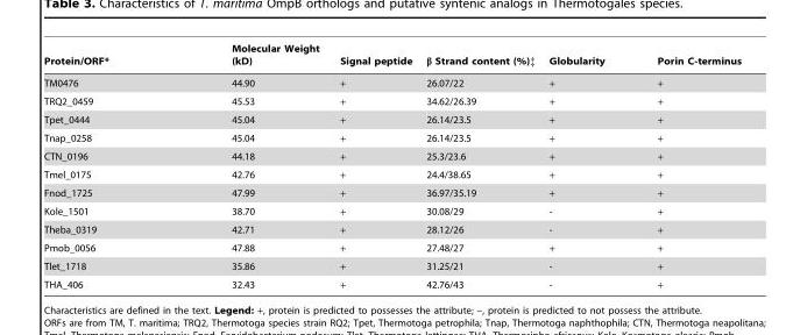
<table><thead><tr><td>Protein/ORF*</td><td>Molecular Weight (kD)</td><td>Signal peptide</td><td>β Strand content (%)‡</td><td>Globularity</td><td>Porin C-terminus</td></tr></thead><tbody><tr><td>TM0476</td><td>44.90</td><td>+</td><td>26.07/22</td><td>+</td><td>+</td></tr><tr><td>TRQ2_0459</td><td>45.53</td><td>+</td><td>34.62/26.39</td><td>+</td><td>+</td></tr><tr><td>Tpet_0444</td><td>45.04</td><td>+</td><td>26.14/23.5</td><td>+</td><td>+</td></tr><tr><td>Tnap_0258</td><td>45.04</td><td>+</td><td>26.14/23.5</td><td>+</td><td>+</td></tr><tr><td>CTN_0196</td><td>44.18</td><td>+</td><td>25.3/23.6</td><td>+</td><td>+</td></tr><tr><td>Tmel_0175</td><td>42.76</td><td>+</td><td>24.4/38.65</td><td>+</td><td>+</td></tr><tr><td>Fnod_1725</td><td>47.99</td><td>+</td><td>36.97/35.19</td><td>+</td><td>+</td></tr><tr><td>Kole_1501</td><td>38.70</td><td>+</td><td>30.08/29</td><td>-</td><td>+</td></tr><tr><td>Theba_0319</td><td>42.71</td><td>+</td><td>28.12/26</td><td>-</td><td>+</td></tr><tr><td>Pmob_0056</td><td>47.88</td><td>+</td><td>27.48/27</td><td>+</td><td>+</td></tr><tr><td>Tlet_1718</td><td>35.86</td><td>+</td><td>31.25/21</td><td>-</td><td>+</td></tr><tr><td>THA_406</td><td>32.43</td><td>+</td><td>42.76/43</td><td>-</td><td>+</td></tr></tbody></table>